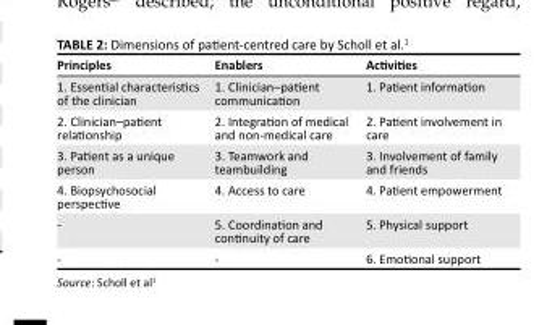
<table><thead><tr><td>Principles</td><td>Enablers</td><td>Activities</td></tr></thead><tbody><tr><td>1. Essential characteristics of the clinician</td><td>1. Clinician–patient communication</td><td>1. Patient information</td></tr><tr><td>2. Clinician–patient relationship</td><td>2. Integration of medical and non-medical care</td><td>2. Patient involvement in care</td></tr><tr><td>3. Patient as a unique person</td><td>3. Teamwork and teambuilding</td><td>3. Involvement of family and friends</td></tr><tr><td>4. Biopsychosocial perspective</td><td>4. Access to care</td><td>4. Patient empowerment</td></tr><tr><td>-</td><td>5. Coordination and continuity of care</td><td>5. Physical support</td></tr><tr><td>-</td><td>-</td><td>6. Emotional support</td></tr></tbody></table>